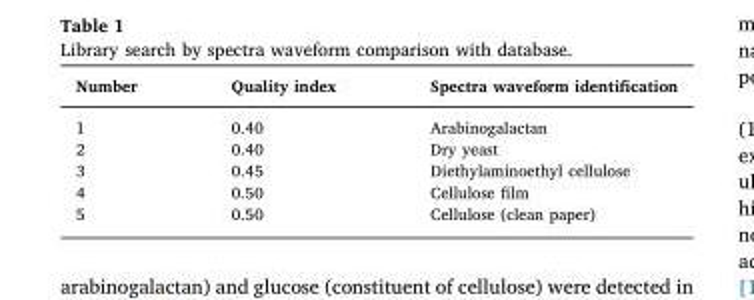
<table><thead><tr><td>Number</td><td>Quality index</td><td>Spectra waveform identification</td></tr></thead><tbody><tr><td>1</td><td>0.40</td><td>Arabinogalactan</td></tr><tr><td>2</td><td>0.40</td><td>Dry yeast</td></tr><tr><td>3</td><td>0.45</td><td>Diethylaminoethyl cellulose</td></tr><tr><td>4</td><td>0.50</td><td>Cellulose film</td></tr><tr><td>5</td><td>0.50</td><td>Cellulose (clean paper)</td></tr></tbody></table>